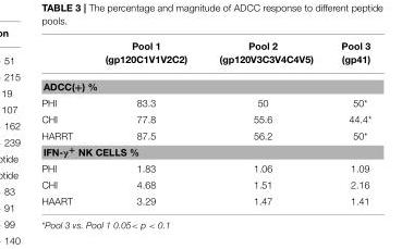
<table><thead><tr><td></td><td>Pool 1 (gp120C1V1V2C2)</td><td>Pool 2 (gp120V3C3V4C4V5)</td><td>Pool 3 (gp41)</td></tr></thead><tbody><tr><td colspan="4">ADCC(+) %</td></tr><tr><td>PHI</td><td>83.3</td><td>50</td><td>50*</td></tr><tr><td>CHI</td><td>77.8</td><td>55.6</td><td>44.4*</td></tr><tr><td>HARRT</td><td>87.5</td><td>56.2</td><td>50*</td></tr><tr><td colspan="4">IFN-γ<sup>+</sup> NK CELLS %</td></tr><tr><td>PHI</td><td>1.83</td><td>1.06</td><td>1.09</td></tr><tr><td>CHI</td><td>4.68</td><td>1.51</td><td>2.16</td></tr><tr><td>HAART</td><td>3.29</td><td>1.47</td><td>1.41</td></tr></tbody></table>